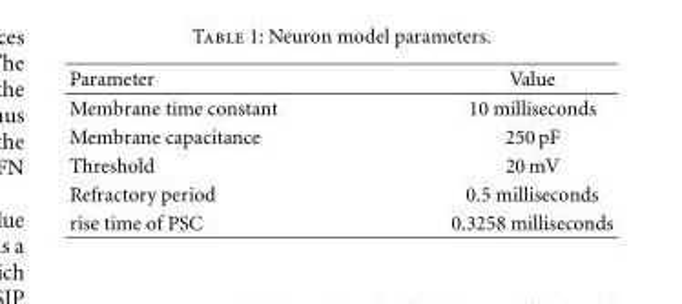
<table><thead><tr><td>Parameter</td><td>Value</td></tr></thead><tbody><tr><td>Membrane time constant</td><td>10 milliseconds</td></tr><tr><td>Membrane capacitance</td><td>250 pF</td></tr><tr><td>Threshold</td><td>20 mV</td></tr><tr><td>Refractory period</td><td>0.5 milliseconds</td></tr><tr><td>rise time of PSC</td><td>0.3258 milliseconds</td></tr></tbody></table>